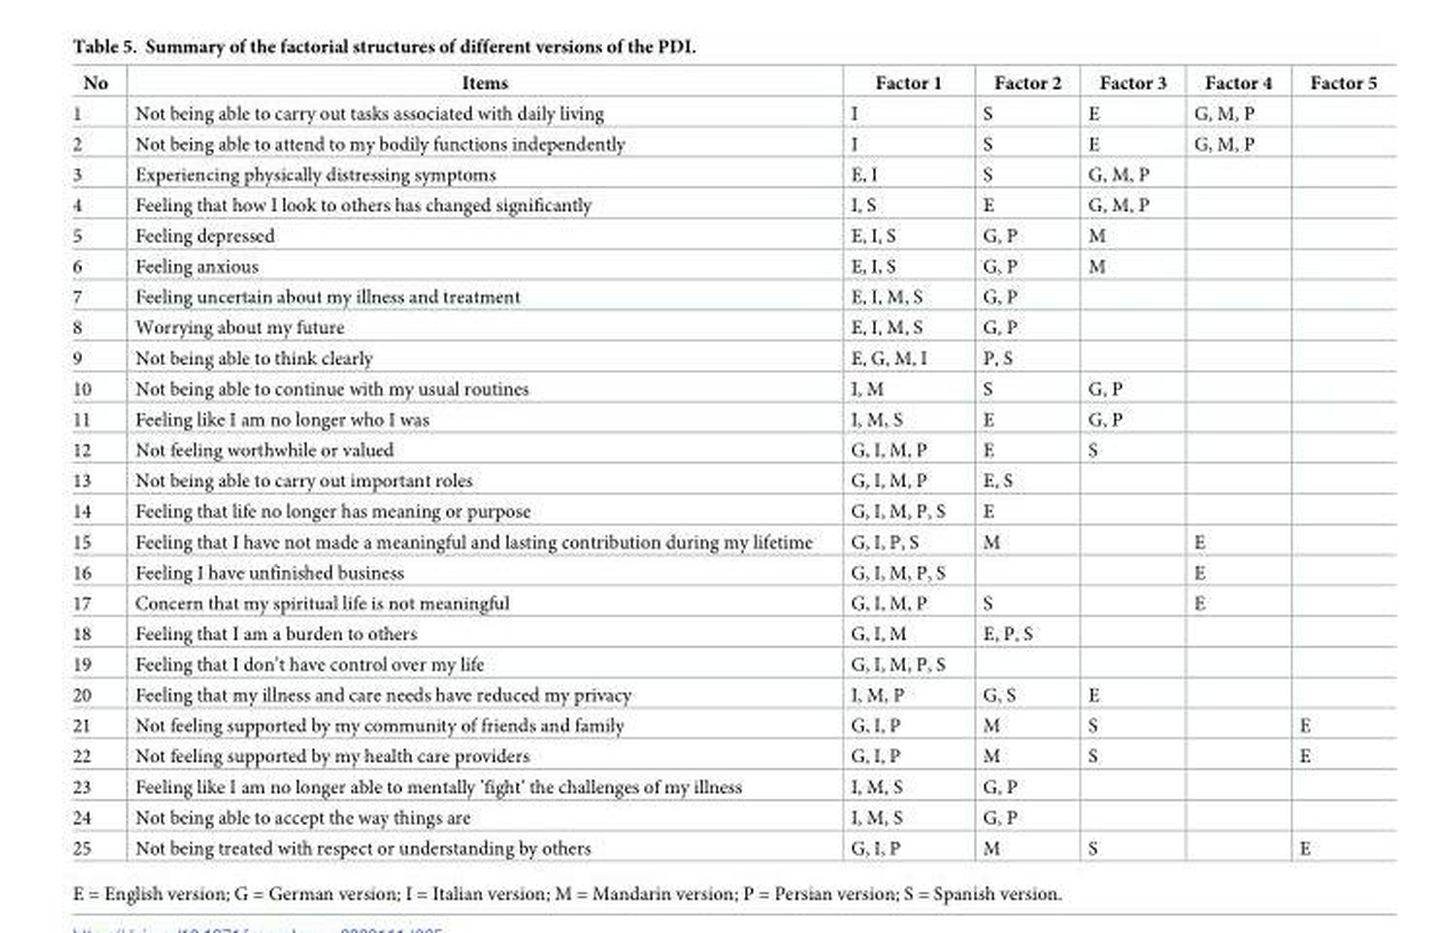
<table><thead><tr><td>No</td><td>Items</td><td>Factor 1</td><td>Factor 2</td><td>Factor 3</td><td>Factor 4</td><td>Factor 5</td></tr></thead><tbody><tr><td>1</td><td>Not being able to carry out tasks associated with daily living</td><td>I</td><td>S</td><td>E</td><td>G, M, P</td><td></td></tr><tr><td>2</td><td>Not being able to attend to my bodily functions independently</td><td>I</td><td>S</td><td>E</td><td>G, M, P</td><td></td></tr><tr><td>3</td><td>Experiencing physically distressing symptoms</td><td>E, I</td><td>S</td><td>G, M, P</td><td></td><td></td></tr><tr><td>4</td><td>Feeling that how I look to others has changed significantly</td><td>I, S</td><td>E</td><td>G, M, P</td><td></td><td></td></tr><tr><td>5</td><td>Feeling depressed</td><td>E, I, S</td><td>G, P</td><td>M</td><td></td><td></td></tr><tr><td>6</td><td>Feeling anxious</td><td>E, I, S</td><td>G, P</td><td>M</td><td></td><td></td></tr><tr><td>7</td><td>Feeling uncertain about my illness and treatment</td><td>E, I, M, S</td><td>G, P</td><td></td><td></td><td></td></tr><tr><td>8</td><td>Worrying about my future</td><td>E, I, M, S</td><td>G, P</td><td></td><td></td><td></td></tr><tr><td>9</td><td>Not being able to think clearly</td><td>E, G, M, I</td><td>P, S</td><td></td><td></td><td></td></tr><tr><td>10</td><td>Not being able to continue with my usual routines</td><td>I, M</td><td>S</td><td>G, P</td><td></td><td></td></tr><tr><td>11</td><td>Feeling like I am no longer who I was</td><td>I, M, S</td><td>E</td><td>G, P</td><td></td><td></td></tr><tr><td>12</td><td>Not feeling worthwhile or valued</td><td>G, I, M, P</td><td>E</td><td>S</td><td></td><td></td></tr><tr><td>13</td><td>Not being able to carry out important roles</td><td>G, I, M, P</td><td>E, S</td><td></td><td></td><td></td></tr><tr><td>14</td><td>Feeling that life no longer has meaning or purpose</td><td>G, I, M, P, S</td><td>E</td><td></td><td></td><td></td></tr><tr><td>15</td><td>Feeling that I have not made a meaningful and lasting contribution during my lifetime</td><td>G, I, P, S</td><td>M</td><td></td><td>E</td><td></td></tr><tr><td>16</td><td>Feeling I have unfinished business</td><td>G, I, M, P, S</td><td></td><td></td><td>E</td><td></td></tr><tr><td>17</td><td>Concern that my spiritual life is not meaningful</td><td>G, I, M, P</td><td>S</td><td></td><td>E</td><td></td></tr><tr><td>18</td><td>Feeling that I am a burden to others</td><td>G, I, M</td><td>E, P, S</td><td></td><td></td><td></td></tr><tr><td>19</td><td>Feeling that I don’t have control over my life</td><td>G, I, M, P, S</td><td></td><td></td><td></td><td></td></tr><tr><td>20</td><td>Feeling that my illness and care needs have reduced my privacy</td><td>I, M, P</td><td>G, S</td><td>E</td><td></td><td></td></tr><tr><td>21</td><td>Not feeling supported by my community of friends and family</td><td>G, I, P</td><td>M</td><td>S</td><td></td><td>E</td></tr><tr><td>22</td><td>Not feeling supported by my health care providers</td><td>G, I, P</td><td>M</td><td>S</td><td></td><td>E</td></tr><tr><td>23</td><td>Feeling like I am no longer able to mentally ’fight’ the challenges of my illness</td><td>I, M, S</td><td>G, P</td><td></td><td></td><td></td></tr><tr><td>24</td><td>Not being able to accept the way things are</td><td>I, M, S</td><td>G, P</td><td></td><td></td><td></td></tr><tr><td>25</td><td>Not being treated with respect or understanding by others</td><td>G, I, P</td><td>M</td><td>S</td><td></td><td>E</td></tr></tbody></table>